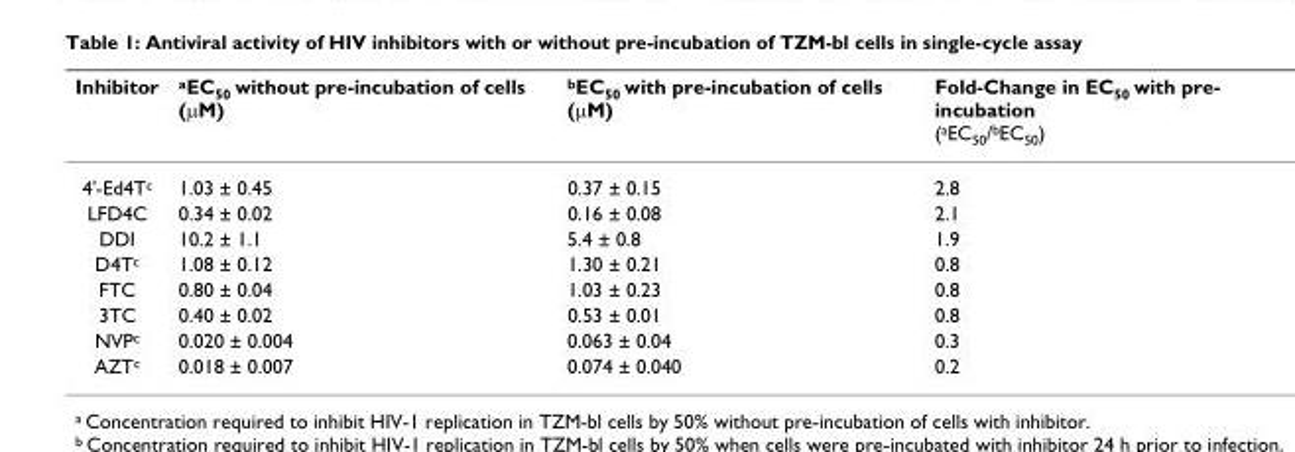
<table><thead><tr><td>Inhibitor</td><td><sup>a</sup>EC<sub>50</sub> without pre-incubation of cells (μM)</td><td><sup>b</sup>EC<sub>50</sub> with pre-incubation of cells (μM)</td><td>Fold-Change in EC<sub>50</sub> with pre- incubation (<sup>a</sup>EC<sub>50</sub>/<sup>b</sup>EC<sub>50</sub>)</td></tr></thead><tbody><tr><td>4&#x27;-Ed4T<sup>c</sup></td><td>1.03 ± 0.45</td><td>0.37 ± 0.15</td><td>2.8</td></tr><tr><td>LFD4C</td><td>0.34 ± 0.02</td><td>0.16 ± 0.08</td><td>2.1</td></tr><tr><td>DDI</td><td>10.2 ± 1.1</td><td>5.4 ± 0.8</td><td>1.9</td></tr><tr><td>D4T<sup>c</sup></td><td>1.08 ± 0.12</td><td>1.30 ± 0.21</td><td>0.8</td></tr><tr><td>FTC</td><td>0.80 ± 0.04</td><td>1.03 ± 0.23</td><td>0.8</td></tr><tr><td>3TC</td><td>0.40 ± 0.02</td><td>0.53 ± 0.01</td><td>0.8</td></tr><tr><td>NVP<sup>c</sup></td><td>0.020 ± 0.004</td><td>0.063 ± 0.04</td><td>0.3</td></tr><tr><td>AZT<sup>c</sup></td><td>0.018 ± 0.007</td><td>0.074 ± 0.040</td><td>0.2</td></tr></tbody></table>